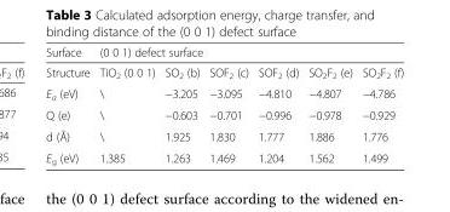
<table><thead><tr><td rowspan="2">Surface Structure</td><td colspan="6">(0 0 1) defect surface</td></tr><tr><td>TiO<sub>2</sub> (0 0 1)</td><td>SO<sub>2</sub> (b)</td><td>SOF<sub>2</sub> (c)</td><td>SOF<sub>2</sub> (d)</td><td>SO<sub>2</sub>F<sub>2</sub> (e)</td><td>SO<sub>2</sub>F<sub>2</sub> (f)</td></tr></thead><tbody><tr><td>E<sub>a</sub> (eV)</td><td>\</td><td>−3.205</td><td>−3.095</td><td>−4.810</td><td>−4.807</td><td>−4.786</td></tr><tr><td>Q (e)</td><td>\</td><td>−0.603</td><td>−0.701</td><td>−0.996</td><td>−0.978</td><td>−0.929</td></tr><tr><td>d (Å)</td><td>\</td><td>1.925</td><td>1.830</td><td>1.777</td><td>1.886</td><td>1.776</td></tr><tr><td>E<sub>g</sub> (eV)</td><td>1.385</td><td>1.263</td><td>1.469</td><td>1.204</td><td>1.562</td><td>1.499</td></tr></tbody></table>